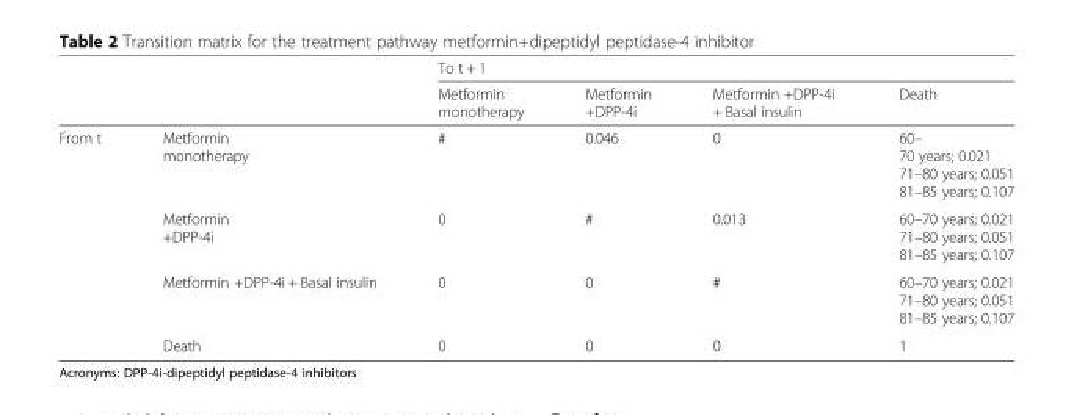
<table><thead><tr><td rowspan="2"></td><td rowspan="2"></td><td colspan="4">To t + 1</td></tr><tr><td>Metformin monotherapy</td><td>Metformin +DPP-4i</td><td>Metformin +DPP-4i + Basal insulin</td><td>Death</td></tr></thead><tbody><tr><td rowspan="4">From t</td><td>Metformin monotherapy</td><td>#</td><td>0.046</td><td>0</td><td>60– 70 years; 0.021 71–80 years; 0.051 81–85 years; 0.107</td></tr><tr><td>Metformin +DPP-4i</td><td>0</td><td>#</td><td>0.013</td><td>60–70 years; 0.021 71–80 years; 0.051 81–85 years; 0.107</td></tr><tr><td>Metformin +DPP-4i + Basal insulin</td><td>0</td><td>0</td><td>#</td><td>60–70 years; 0.021 71–80 years; 0.051 81–85 years; 0.107</td></tr><tr><td>Death</td><td>0</td><td>0</td><td>0</td><td>1</td></tr></tbody></table>